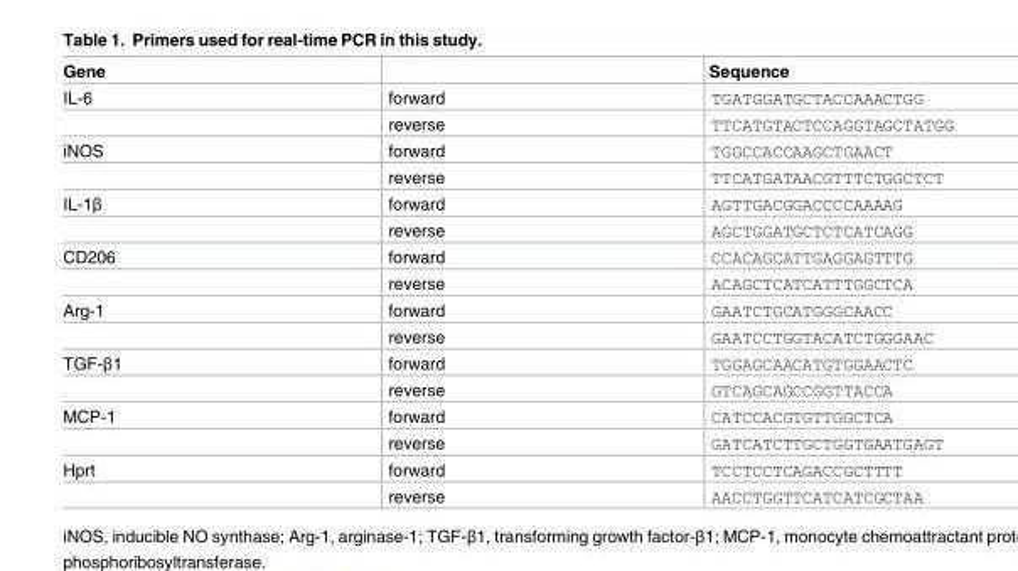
<table><thead><tr><td>Gene</td><td></td><td>Sequence</td></tr></thead><tbody><tr><td rowspan="2">IL-6</td><td>forward</td><td>TGATGGATGCTACCAAACTGG</td></tr><tr><td>reverse</td><td>TTCATGTACTCCAGGTAGCTATGG</td></tr><tr><td rowspan="2">iNOS</td><td>forward</td><td>TGGCCACCAAGCTGAACT</td></tr><tr><td>reverse</td><td>TTCATGATAACGTTTCTGGCTCT</td></tr><tr><td rowspan="2">IL-1β</td><td>forward</td><td>AGTTGACGGACCCCAAAAG</td></tr><tr><td>reverse</td><td>AGCTGGATGCTCTCATCAGG</td></tr><tr><td rowspan="2">CD206</td><td>forward</td><td>CCACAGCATTGAGGAGTTTG</td></tr><tr><td>reverse</td><td>ACAGCTCATCATTTGGCTCA</td></tr><tr><td rowspan="2">Arg-1</td><td>forward</td><td>GAATCTGCATGGGCAACC</td></tr><tr><td>reverse</td><td>GAATCCTGGTACATCTGGGAAC</td></tr><tr><td rowspan="2">TGF-β1</td><td>forward</td><td>TGGAGCAACATGTGGAACTC</td></tr><tr><td>reverse</td><td>GTCAGCAGCCGGTTACCA</td></tr><tr><td rowspan="2">MCP-1</td><td>forward</td><td>CATCCACGTGTTGGCTCA</td></tr><tr><td>reverse</td><td>GATCATCTTGCTGGTGAATGAGT</td></tr><tr><td rowspan="2">Hprt</td><td>forward</td><td>TCCTCCTCAGACCGCTTTT</td></tr><tr><td>reverse</td><td>AACCTGGTTCATCATCGCTAA</td></tr></tbody></table>